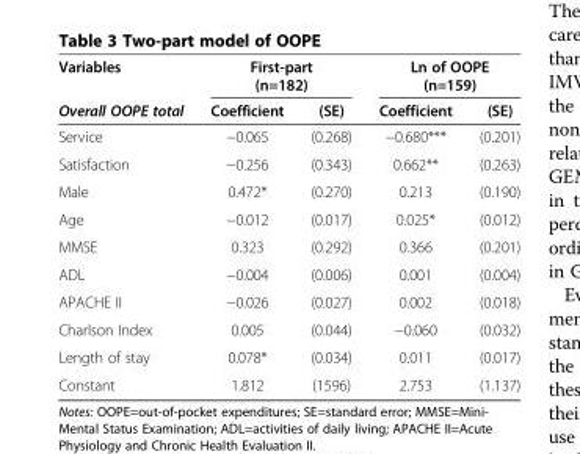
<table><thead><tr><td rowspan="2">Variables Overall OOPE total</td><td colspan="2">First-part (n=182)</td><td colspan="2">Ln of OOPE (n=159)</td></tr><tr><td>Coefficient</td><td>(SE)</td><td>Coefficient</td><td>(SE)</td></tr></thead><tbody><tr><td>Service</td><td>−0.065</td><td>(0.268)</td><td>−0.680***</td><td>(0.201)</td></tr><tr><td>Satisfaction</td><td>−0.256</td><td>(0.343)</td><td>0.662**</td><td>(0.263)</td></tr><tr><td>Male</td><td>0.472*</td><td>(0.270)</td><td>0.213</td><td>(0.190)</td></tr><tr><td>Age</td><td>−0.012</td><td>(0.017)</td><td>0.025*</td><td>(0.012)</td></tr><tr><td>MMSE</td><td>0.323</td><td>(0.292)</td><td>0.366</td><td>(0.201)</td></tr><tr><td>ADL</td><td>−0.004</td><td>(0.006)</td><td>0.001</td><td>(0.004)</td></tr><tr><td>APACHE II</td><td>−0.026</td><td>(0.027)</td><td>0.002</td><td>(0.018)</td></tr><tr><td>Charlson Index</td><td>0.005</td><td>(0.044)</td><td>−0.060</td><td>(0.032)</td></tr><tr><td>Length of stay</td><td>0.078*</td><td>(0.034)</td><td>0.011</td><td>(0.017)</td></tr><tr><td>Constant</td><td>1.812</td><td>(1596)</td><td>2.753</td><td>(1.137)</td></tr></tbody></table>